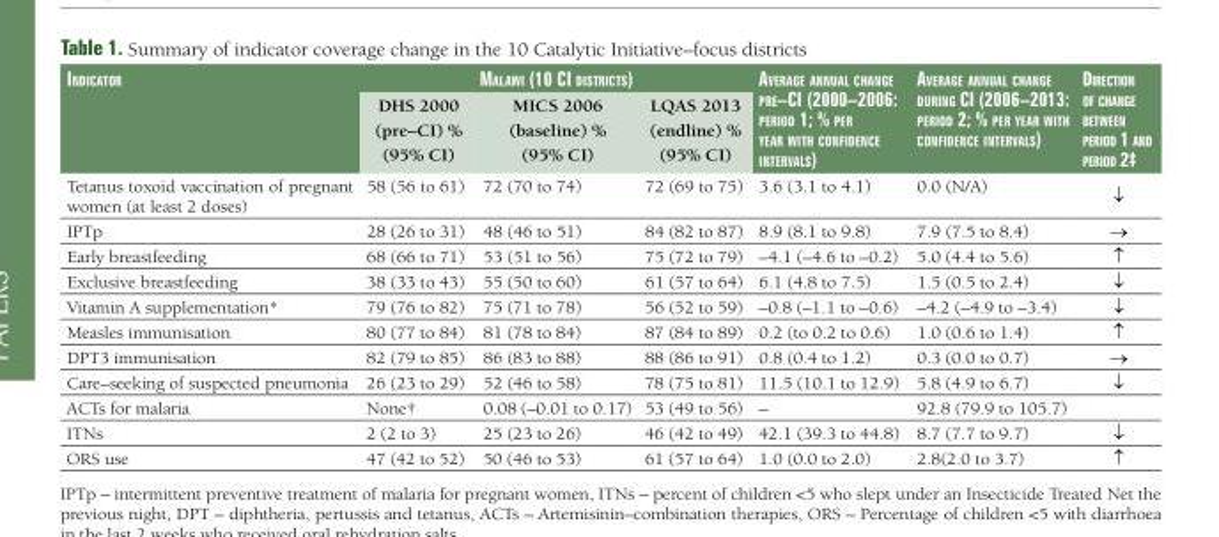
<table><thead><tr><td rowspan="2">IndIcator</td><td colspan="3">MalawI (10 cI dIstrIcts)</td><td rowspan="2">average annual change pre–cI (2000–2006: perIod 1; % per year wIth confIdence Intervals)</td><td rowspan="2">average annual change durIng cI (2006–2013: perIod 2; % per year wIth confIdence Intervals)</td><td rowspan="2">dIrectIon of change between perIod 1 and perIod 2‡</td></tr><tr><td>DHS 2000 (pre–CI) % (95% CI)</td><td>MICS 2006 (baseline) % (95% CI)</td><td>LQAS 2013 (endline) % (95% CI)</td></tr></thead><tbody><tr><td>Tetanus toxoid vaccination of pregnant women (at least 2 doses)</td><td>58 (56 to 61)</td><td>72 (70 to 74)</td><td>72 (69 to 75)</td><td>3.6 (3.1 to 4.1)</td><td>0.0 (N/A)</td><td>↓</td></tr><tr><td>IPTp</td><td>28 (26 to 31)</td><td>48 (46 to 51)</td><td>84 (82 to 87)</td><td>8.9 (8.1 to 9.8)</td><td>7.9 (7.5 to 8.4)</td><td>→</td></tr><tr><td>Early breastfeeding</td><td>68 (66 to 71)</td><td>53 (51 to 56)</td><td>75 (72 to 79)</td><td>–4.1 (–4.6 to –0.2)</td><td>5.0 (4.4 to 5.6)</td><td>↑</td></tr><tr><td>Exclusive breastfeeding</td><td>38 (33 to 43)</td><td>55 (50 to 60)</td><td>61 (57 to 64)</td><td>6.1 (4.8 to 7.5)</td><td>1.5 (0.5 to 2.4)</td><td>↓</td></tr><tr><td>Vitamin A supplementation*</td><td>79 (76 to 82)</td><td>75 (71 to 78)</td><td>56 (52 to 59)</td><td>–0.8 (–1.1 to –0.6)</td><td>–4.2 (–4.9 to –3.4)</td><td>↓</td></tr><tr><td>Measles immunisation</td><td>80 (77 to 84)</td><td>81 (78 to 84)</td><td>87 (84 to 89)</td><td>0.2 (to 0.2 to 0.6)</td><td>1.0 (0.6 to 1.4)</td><td>↑</td></tr><tr><td>DPT3 immunisation</td><td>82 (79 to 85)</td><td>86 (83 to 88)</td><td>88 (86 to 91)</td><td>0.8 (0.4 to 1.2)</td><td>0.3 (0.0 to 0.7)</td><td>→</td></tr><tr><td>Care–seeking of suspected pneumonia</td><td>26 (23 to 29)</td><td>52 (46 to 58)</td><td>78 (75 to 81)</td><td>11.5 (10.1 to 12.9)</td><td>5.8 (4.9 to 6.7)</td><td>↓</td></tr><tr><td>ACTs for malaria</td><td>None†</td><td>0.08 (–0.01 to 0.17)</td><td>53 (49 to 56)</td><td>–</td><td>92.8 (79.9 to 105.7)</td><td></td></tr><tr><td>ITNs</td><td>2 (2 to 3)</td><td>25 (23 to 26)</td><td>46 (42 to 49)</td><td>42.1 (39.3 to 44.8)</td><td>8.7 (7.7 to 9.7)</td><td>↓</td></tr><tr><td>ORS use</td><td>47 (42 to 52)</td><td>50 (46 to 53)</td><td>61 (57 to 64)</td><td>1.0 (0.0 to 2.0)</td><td>2.8(2.0 to 3.7)</td><td>↑</td></tr></tbody></table>